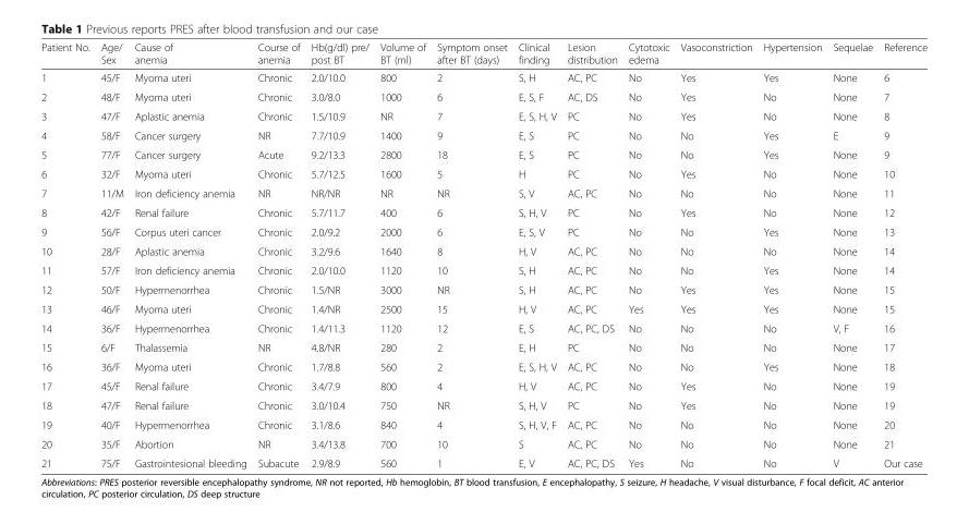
<table><thead><tr><td>Patient No.</td><td>Age/ Sex</td><td>Cause of anemia</td><td>Course of anemia</td><td>Hb(g/dl) pre/ post BT</td><td>Volume of BT (ml)</td><td>Symptom onset after BT (days)</td><td>Clinical finding</td><td>Lesion distribution</td><td>Cytotoxic edema</td><td>Vasoconstriction</td><td>Hypertension</td><td>Sequelae</td><td>Reference</td></tr></thead><tbody><tr><td>1</td><td>45/F</td><td>Myoma uteri</td><td>Chronic</td><td>2.0/10.0</td><td>800</td><td>2</td><td>S, H</td><td>AC, PC</td><td>No</td><td>Yes</td><td>Yes</td><td>None</td><td>6</td></tr><tr><td>2</td><td>48/F</td><td>Myoma uteri</td><td>Chronic</td><td>3.0/8.0</td><td>1000</td><td>6</td><td>E, S, F</td><td>AC, DS</td><td>No</td><td>Yes</td><td>No</td><td>None</td><td>7</td></tr><tr><td>3</td><td>47/F</td><td>Aplastic anemia</td><td>Chronic</td><td>1.5/10.9</td><td>NR</td><td>7</td><td>E, S, H, V</td><td>PC</td><td>No</td><td>Yes</td><td>No</td><td>None</td><td>8</td></tr><tr><td>4</td><td>58/F</td><td>Cancer surgery</td><td>NR</td><td>7.7/10.9</td><td>1400</td><td>9</td><td>E, S</td><td>PC</td><td>No</td><td>No</td><td>Yes</td><td>E</td><td>9</td></tr><tr><td>5</td><td>77/F</td><td>Cancer surgery</td><td>Acute</td><td>9.2/13.3</td><td>2800</td><td>18</td><td>E, S</td><td>PC</td><td>No</td><td>No</td><td>Yes</td><td>None</td><td>9</td></tr><tr><td>6</td><td>32/F</td><td>Myoma uteri</td><td>Chronic</td><td>5.7/12.5</td><td>1600</td><td>5</td><td>H</td><td>PC</td><td>No</td><td>Yes</td><td>No</td><td>None</td><td>10</td></tr><tr><td>7</td><td>11/M</td><td>Iron deficiency anemia</td><td>NR</td><td>NR/NR</td><td>NR</td><td>NR</td><td>S, V</td><td>AC, PC</td><td>No</td><td>No</td><td>No</td><td>None</td><td>11</td></tr><tr><td>8</td><td>42/F</td><td>Renal failure</td><td>Chronic</td><td>5.7/11.7</td><td>400</td><td>6</td><td>S, H, V</td><td>PC</td><td>No</td><td>Yes</td><td>No</td><td>None</td><td>12</td></tr><tr><td>9</td><td>56/F</td><td>Corpus uteri cancer</td><td>Chronic</td><td>2.0/9.2</td><td>2000</td><td>6</td><td>E, S, V</td><td>PC</td><td>No</td><td>No</td><td>Yes</td><td>None</td><td>13</td></tr><tr><td>10</td><td>28/F</td><td>Aplastic anemia</td><td>Chronic</td><td>3.2/9.6</td><td>1640</td><td>8</td><td>H, V</td><td>AC, PC</td><td>No</td><td>No</td><td>No</td><td>None</td><td>14</td></tr><tr><td>11</td><td>57/F</td><td>Iron deficiency anemia</td><td>Chronic</td><td>2.0/10.0</td><td>1120</td><td>10</td><td>S, H</td><td>AC, PC</td><td>No</td><td>No</td><td>Yes</td><td>None</td><td>14</td></tr><tr><td>12</td><td>50/F</td><td>Hypermenorrhea</td><td>Chronic</td><td>1.5/NR</td><td>3000</td><td>NR</td><td>S, H</td><td>AC, PC</td><td>No</td><td>Yes</td><td>Yes</td><td>None</td><td>15</td></tr><tr><td>13</td><td>46/F</td><td>Myoma uteri</td><td>Chronic</td><td>1.4/NR</td><td>2500</td><td>15</td><td>H, V</td><td>AC, PC</td><td>Yes</td><td>Yes</td><td>Yes</td><td>None</td><td>15</td></tr><tr><td>14</td><td>36/F</td><td>Hypermenorrhea</td><td>Chronic</td><td>1.4/11.3</td><td>1120</td><td>12</td><td>E, S</td><td>AC, PC, DS</td><td>No</td><td>No</td><td>No</td><td>V, F</td><td>16</td></tr><tr><td>15</td><td>6/F</td><td>Thalassemia</td><td>NR</td><td>4.8/NR</td><td>280</td><td>2</td><td>E, H</td><td>PC</td><td>No</td><td>No</td><td>No</td><td>None</td><td>17</td></tr><tr><td>16</td><td>36/F</td><td>Myoma uteri</td><td>Chronic</td><td>1.7/8.8</td><td>560</td><td>2</td><td>E, S, H, V</td><td>AC, PC</td><td>No</td><td>No</td><td>Yes</td><td>None</td><td>18</td></tr><tr><td>17</td><td>45/F</td><td>Renal failure</td><td>Chronic</td><td>3.4/7.9</td><td>800</td><td>4</td><td>H, V</td><td>AC, PC</td><td>No</td><td>Yes</td><td>No</td><td>None</td><td>19</td></tr><tr><td>18</td><td>47/F</td><td>Renal failure</td><td>Chronic</td><td>3.0/10.4</td><td>750</td><td>NR</td><td>S, H, V</td><td>PC</td><td>No</td><td>Yes</td><td>No</td><td>None</td><td>19</td></tr><tr><td>19</td><td>40/F</td><td>Hypermenorrhea</td><td>Chronic</td><td>3.1/8.6</td><td>840</td><td>4</td><td>S, H, V, F</td><td>AC, PC</td><td>No</td><td>No</td><td>No</td><td>None</td><td>20</td></tr><tr><td>20</td><td>35/F</td><td>Abortion</td><td>NR</td><td>3.4/13.8</td><td>700</td><td>10</td><td>S</td><td>AC, PC</td><td>No</td><td>No</td><td>No</td><td>None</td><td>21</td></tr><tr><td>21</td><td>75/F</td><td>Gastrointesional bleeding</td><td>Subacute</td><td>2.9/8.9</td><td>560</td><td>1</td><td>E, V</td><td>AC, PC, DS</td><td>Yes</td><td>No</td><td>No</td><td>V</td><td>Our case</td></tr></tbody></table>